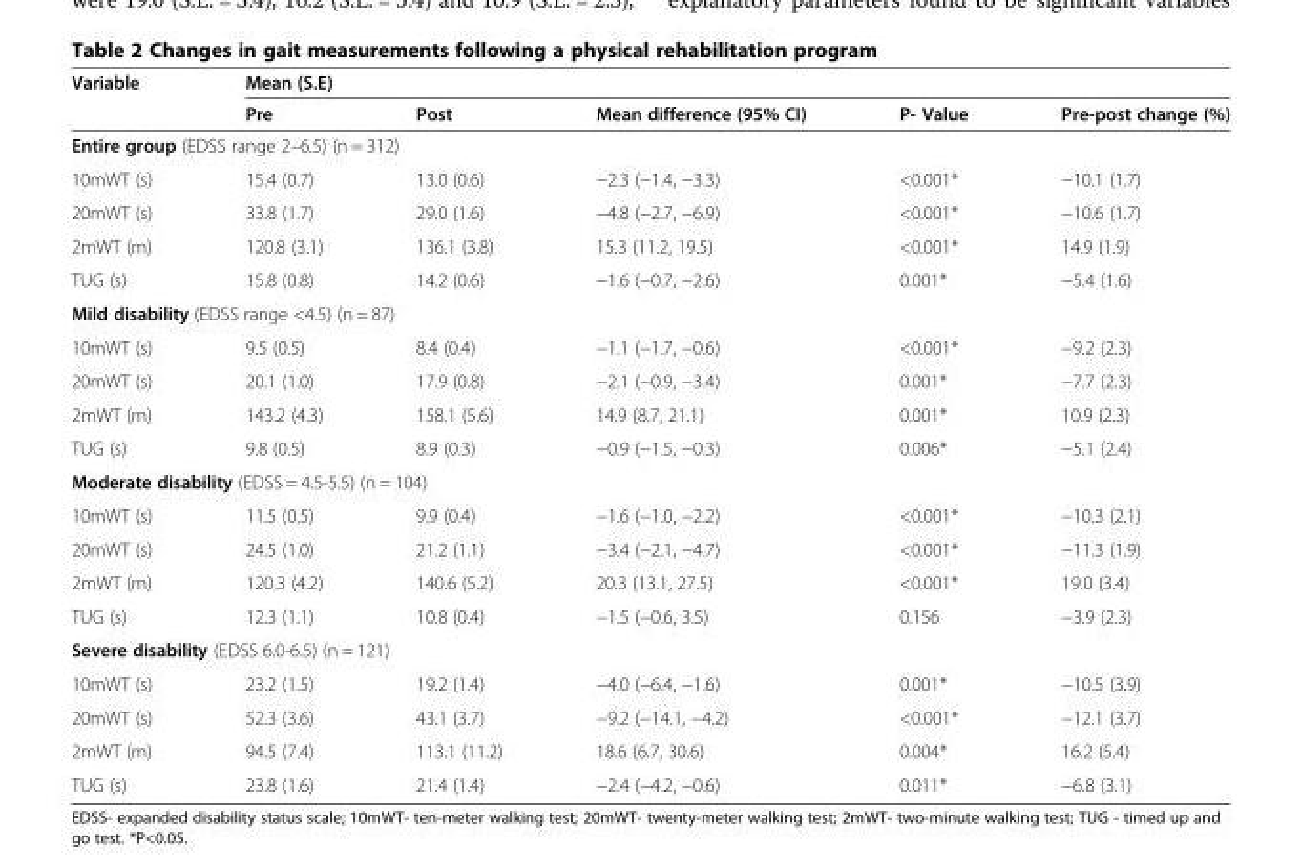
<table><thead><tr><td rowspan="2">Variable</td><td colspan="5">Mean (S.E)</td></tr><tr><td>Pre</td><td>Post</td><td>Mean difference (95% CI)</td><td>P- Value</td><td>Pre-post change (%)</td></tr></thead><tbody><tr><td colspan="6">Entire group (EDSS range 2–6.5) (n = 312)</td></tr><tr><td>10mWT (s)</td><td>15.4 (0.7)</td><td>13.0 (0.6)</td><td>−2.3 (−1.4, −3.3)</td><td>&lt;0.001*</td><td>−10.1 (1.7)</td></tr><tr><td>20mWT (s)</td><td>33.8 (1.7)</td><td>29.0 (1.6)</td><td>−4.8 (−2.7, −6.9)</td><td>&lt;0.001*</td><td>−10.6 (1.7)</td></tr><tr><td>2mWT (m)</td><td>120.8 (3.1)</td><td>136.1 (3.8)</td><td>15.3 (11.2, 19.5)</td><td>&lt;0.001*</td><td>14.9 (1.9)</td></tr><tr><td>TUG (s)</td><td>15.8 (0.8)</td><td>14.2 (0.6)</td><td>−1.6 (−0.7, −2.6)</td><td>0.001*</td><td>−5.4 (1.6)</td></tr><tr><td colspan="6">Mild disability (EDSS range &lt;4.5) (n = 87)</td></tr><tr><td>10mWT (s)</td><td>9.5 (0.5)</td><td>8.4 (0.4)</td><td>−1.1 (−1.7, −0.6)</td><td>&lt;0.001*</td><td>−9.2 (2.3)</td></tr><tr><td>20mWT (s)</td><td>20.1 (1.0)</td><td>17.9 (0.8)</td><td>−2.1 (−0.9, −3.4)</td><td>0.001*</td><td>−7.7 (2.3)</td></tr><tr><td>2mWT (m)</td><td>143.2 (4.3)</td><td>158.1 (5.6)</td><td>14.9 (8.7, 21.1)</td><td>0.001*</td><td>10.9 (2.3)</td></tr><tr><td>TUG (s)</td><td>9.8 (0.5)</td><td>8.9 (0.3)</td><td>−0.9 (−1.5, −0.3)</td><td>0.006*</td><td>−5.1 (2.4)</td></tr><tr><td colspan="6">Moderate disability (EDSS = 4.5-5.5) (n = 104)</td></tr><tr><td>10mWT (s)</td><td>11.5 (0.5)</td><td>9.9 (0.4)</td><td>−1.6 (−1.0, −2.2)</td><td>&lt;0.001*</td><td>−10.3 (2.1)</td></tr><tr><td>20mWT (s)</td><td>24.5 (1.0)</td><td>21.2 (1.1)</td><td>−3.4 (−2.1, −4.7)</td><td>&lt;0.001*</td><td>−11.3 (1.9)</td></tr><tr><td>2mWT (m)</td><td>120.3 (4.2)</td><td>140.6 (5.2)</td><td>20.3 (13.1, 27.5)</td><td>&lt;0.001*</td><td>19.0 (3.4)</td></tr><tr><td>TUG (s)</td><td>12.3 (1.1)</td><td>10.8 (0.4)</td><td>−1.5 (−0.6, 3.5)</td><td>0.156</td><td>−3.9 (2.3)</td></tr><tr><td colspan="6">Severe disability (EDSS 6.0-6.5) (n = 121)</td></tr><tr><td>10mWT (s)</td><td>23.2 (1.5)</td><td>19.2 (1.4)</td><td>−4.0 (−6.4, −1.6)</td><td>0.001*</td><td>−10.5 (3.9)</td></tr><tr><td>20mWT (s)</td><td>52.3 (3.6)</td><td>43.1 (3.7)</td><td>−9.2 (−14.1, −4.2)</td><td>&lt;0.001*</td><td>−12.1 (3.7)</td></tr><tr><td>2mWT (m)</td><td>94.5 (7.4)</td><td>113.1 (11.2)</td><td>18.6 (6.7, 30.6)</td><td>0.004*</td><td>16.2 (5.4)</td></tr><tr><td>TUG (s)</td><td>23.8 (1.6)</td><td>21.4 (1.4)</td><td>−2.4 (−4.2, −0.6)</td><td>0.011*</td><td>−6.8 (3.1)</td></tr></tbody></table>